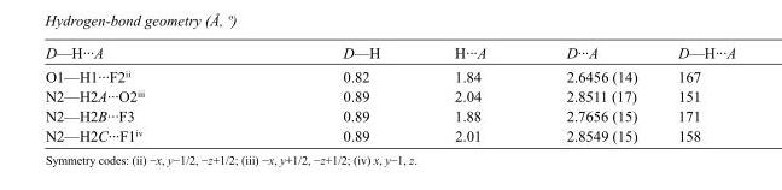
<table><tbody><tr><td>D—H···A</td><td>D—H</td><td>H···A</td><td>D···A</td><td>D—H···A</td></tr><tr><td>O1—H1···F2<sup>ii</sup></td><td>0.82</td><td>1.84</td><td>2.6456 (14)</td><td>167</td></tr><tr><td>N2—H2A···O2<sup>iii</sup></td><td>0.89</td><td>2.04</td><td>2.8511 (17)</td><td>151</td></tr><tr><td>N2—H2B···F3</td><td>0.89</td><td>1.88</td><td>2.7656 (15)</td><td>171</td></tr><tr><td>N2—H2C···F1<sup>iv</sup></td><td>0.89</td><td>2.01</td><td>2.8549 (15)</td><td>158</td></tr></tbody></table>